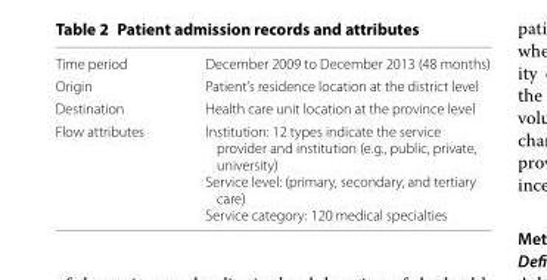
<table><tbody><tr><td>Time period</td><td>December 2009 to December 2013 (48 months)</td></tr><tr><td>Origin</td><td>Patient’s residence location at the district level</td></tr><tr><td>Destination</td><td>Health care unit location at the province level</td></tr><tr><td>Flow attributes</td><td>Institution: 12 types indicate the service provider and institution (e.g., public, private, university) Service level: (primary, secondary, and tertiary care) Service category: 120 medical specialties</td></tr></tbody></table>